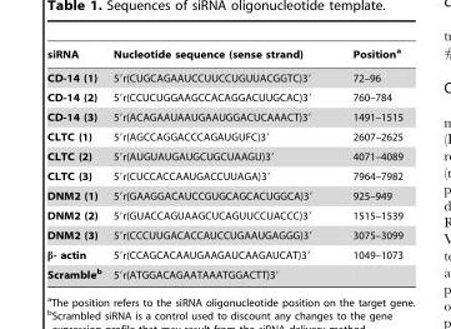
<table><thead><tr><td>siRNA</td><td>Nucleotide sequence (sense strand)</td><td>Position<sup>a</sup></td></tr></thead><tbody><tr><td>CD-14 (1)</td><td>5′r(CUGCAGAAUCCUUCCUGUUACGGTC)3′</td><td>72–96</td></tr><tr><td>CD-14 (2)</td><td>5′r(CCUCUGGAAGCCACAGGACUUGCAC)3′</td><td>760–784</td></tr><tr><td>CD-14 (3)</td><td>5′r(ACAGAAUAAUGAAUGGACUCAAACT)3′</td><td>1491–1515</td></tr><tr><td>CLTC (1)</td><td>5′r(AGCCAGGACCCAGAUGUFC)3′</td><td>2607–2625</td></tr><tr><td>CLTC (2)</td><td>5′r(AUGUAUGAUGCUGCUAAGU)3′</td><td>4071–4089</td></tr><tr><td>CLTC (3)</td><td>5′r(CUCCACCAAUGACCUUAGA)3′</td><td>7964–7982</td></tr><tr><td>DNM2 (1)</td><td>5′r(GAAGGACAUCCGUGCAGCACUGGCA)3′</td><td>925–949</td></tr><tr><td>DNM2 (2)</td><td>5′r(GUACCAGUAAGCUCAGUUCCUACCC)3′</td><td>1515–1539</td></tr><tr><td>DNM2 (3)</td><td>5′r(CCCUUGACACCAUCCUGAAUGAGGG)3′</td><td>3075–3099</td></tr><tr><td>β- actin</td><td>5′r(CCAGCACAAUGAAGAUCAAGAUCAT)3′</td><td>1049–1073</td></tr><tr><td>Scrambleb</td><td>5′r(ATGGACAGAATAAATGGACTT)3′</td><td></td></tr></tbody></table>